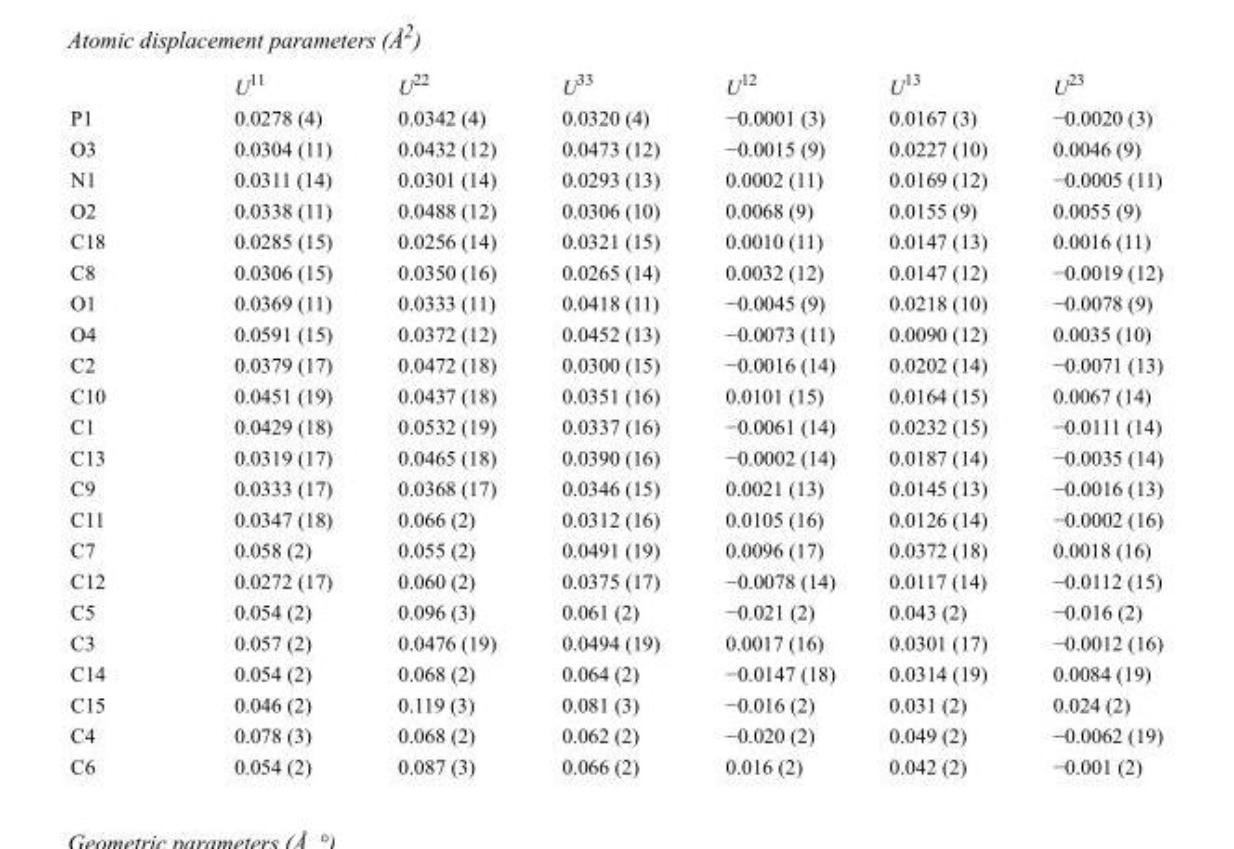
<table><thead><tr><td></td><td>U<sup>11</sup></td><td>U<sup>22</sup></td><td>U<sup>33</sup></td><td>U<sup>12</sup></td><td>U<sup>13</sup></td><td>U<sup>23</sup></td></tr></thead><tbody><tr><td>P1</td><td>0.0278 (4)</td><td>0.0342 (4)</td><td>0.0320 (4)</td><td>−0.0001 (3)</td><td>0.0167 (3)</td><td>−0.0020 (3)</td></tr><tr><td>O3</td><td>0.0304 (11)</td><td>0.0432 (12)</td><td>0.0473 (12)</td><td>−0.0015 (9)</td><td>0.0227 (10)</td><td>0.0046 (9)</td></tr><tr><td>N1</td><td>0.0311 (14)</td><td>0.0301 (14)</td><td>0.0293 (13)</td><td>0.0002 (11)</td><td>0.0169 (12)</td><td>−0.0005 (11)</td></tr><tr><td>O2</td><td>0.0338 (11)</td><td>0.0488 (12)</td><td>0.0306 (10)</td><td>0.0068 (9)</td><td>0.0155 (9)</td><td>0.0055 (9)</td></tr><tr><td>C18</td><td>0.0285 (15)</td><td>0.0256 (14)</td><td>0.0321 (15)</td><td>0.0010 (11)</td><td>0.0147 (13)</td><td>0.0016 (11)</td></tr><tr><td>C8</td><td>0.0306 (15)</td><td>0.0350 (16)</td><td>0.0265 (14)</td><td>0.0032 (12)</td><td>0.0147 (12)</td><td>−0.0019 (12)</td></tr><tr><td>O1</td><td>0.0369 (11)</td><td>0.0333 (11)</td><td>0.0418 (11)</td><td>−0.0045 (9)</td><td>0.0218 (10)</td><td>−0.0078 (9)</td></tr><tr><td>O4</td><td>0.0591 (15)</td><td>0.0372 (12)</td><td>0.0452 (13)</td><td>−0.0073 (11)</td><td>0.0090 (12)</td><td>0.0035 (10)</td></tr><tr><td>C2</td><td>0.0379 (17)</td><td>0.0472 (18)</td><td>0.0300 (15)</td><td>−0.0016 (14)</td><td>0.0202 (14)</td><td>−0.0071 (13)</td></tr><tr><td>C10</td><td>0.0451 (19)</td><td>0.0437 (18)</td><td>0.0351 (16)</td><td>0.0101 (15)</td><td>0.0164 (15)</td><td>0.0067 (14)</td></tr><tr><td>C1</td><td>0.0429 (18)</td><td>0.0532 (19)</td><td>0.0337 (16)</td><td>−0.0061 (14)</td><td>0.0232 (15)</td><td>−0.0111 (14)</td></tr><tr><td>C13</td><td>0.0319 (17)</td><td>0.0465 (18)</td><td>0.0390 (16)</td><td>−0.0002 (14)</td><td>0.0187 (14)</td><td>−0.0035 (14)</td></tr><tr><td>C9</td><td>0.0333 (17)</td><td>0.0368 (17)</td><td>0.0346 (15)</td><td>0.0021 (13)</td><td>0.0145 (13)</td><td>−0.0016 (13)</td></tr><tr><td>C11</td><td>0.0347 (18)</td><td>0.066 (2)</td><td>0.0312 (16)</td><td>0.0105 (16)</td><td>0.0126 (14)</td><td>−0.0002 (16)</td></tr><tr><td>C7</td><td>0.058 (2)</td><td>0.055 (2)</td><td>0.0491 (19)</td><td>0.0096 (17)</td><td>0.0372 (18)</td><td>0.0018 (16)</td></tr><tr><td>C12</td><td>0.0272 (17)</td><td>0.060 (2)</td><td>0.0375 (17)</td><td>−0.0078 (14)</td><td>0.0117 (14)</td><td>−0.0112 (15)</td></tr><tr><td>C5</td><td>0.054 (2)</td><td>0.096 (3)</td><td>0.061 (2)</td><td>−0.021 (2)</td><td>0.043 (2)</td><td>−0.016 (2)</td></tr><tr><td>C3</td><td>0.057 (2)</td><td>0.0476 (19)</td><td>0.0494 (19)</td><td>0.0017 (16)</td><td>0.0301 (17)</td><td>−0.0012 (16)</td></tr><tr><td>C14</td><td>0.054 (2)</td><td>0.068 (2)</td><td>0.064 (2)</td><td>−0.0147 (18)</td><td>0.0314 (19)</td><td>0.0084 (19)</td></tr><tr><td>C15</td><td>0.046 (2)</td><td>0.119 (3)</td><td>0.081 (3)</td><td>−0.016 (2)</td><td>0.031 (2)</td><td>0.024 (2)</td></tr><tr><td>C4</td><td>0.078 (3)</td><td>0.068 (2)</td><td>0.062 (2)</td><td>−0.020 (2)</td><td>0.049 (2)</td><td>−0.0062 (19)</td></tr><tr><td>C6</td><td>0.054 (2)</td><td>0.087 (3)</td><td>0.066 (2)</td><td>0.016 (2)</td><td>0.042 (2)</td><td>−0.001 (2)</td></tr></tbody></table>